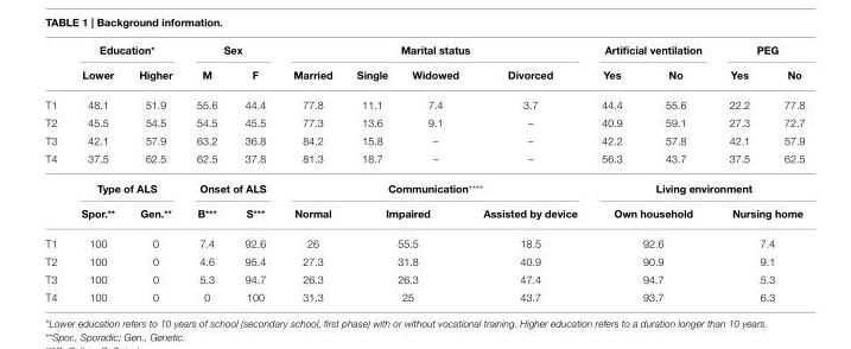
<table><thead><tr><td rowspan="2"></td><td colspan="2">Education*</td><td colspan="2">Sex</td><td colspan="4">Marital status</td><td colspan="2">Artificial ventilation</td><td colspan="2">PEG</td></tr><tr><td>Lower</td><td>Higher</td><td>M</td><td>F</td><td>Married</td><td>Single</td><td>Widowed</td><td>Divorced</td><td>Yes</td><td>No</td><td>Yes</td><td>No</td></tr></thead><tbody><tr><td>T1</td><td>48.1</td><td>51.9</td><td>55.6</td><td>44.4</td><td>77.8</td><td>11.1</td><td>7.4</td><td>3.7</td><td>44.4</td><td>55.6</td><td>22.2</td><td>77.8</td></tr><tr><td>T2</td><td>45.5</td><td>54.5</td><td>54.5</td><td>45.5</td><td>77.3</td><td>13.6</td><td>9.1</td><td>–</td><td>40.9</td><td>59.1</td><td>27.3</td><td>72.7</td></tr><tr><td>T3</td><td>42.1</td><td>57.9</td><td>63.2</td><td>36.8</td><td>84.2</td><td>15.8</td><td>–</td><td>–</td><td>42.2</td><td>57.8</td><td>42.1</td><td>57.9</td></tr><tr><td rowspan="3">T4</td><td>37.5</td><td>62.5</td><td>62.5</td><td>37.8</td><td>81.3</td><td>18.7</td><td>–</td><td>–</td><td>56.3</td><td>43.7</td><td>37.5</td><td>62.5</td></tr><tr><td colspan="2">Type of ALS</td><td colspan="2">Onset of ALS</td><td colspan="4">Communication****</td><td colspan="4">Living environment</td></tr><tr><td>Spor.**</td><td>Gen.**</td><td>B***</td><td>S***</td><td>Normal</td><td colspan="2">Impaired</td><td>Assisted by device</td><td colspan="2">Own household</td><td colspan="2">Nursing home</td></tr><tr><td>T1</td><td>100</td><td>0</td><td>7.4</td><td>92.6</td><td>26</td><td colspan="2">55.5</td><td>18.5</td><td colspan="2">92.6</td><td colspan="2">7.4</td></tr><tr><td>T2</td><td>100</td><td>0</td><td>4.6</td><td>95.4</td><td>27.3</td><td colspan="2">31.8</td><td>40.9</td><td colspan="2">90.9</td><td colspan="2">9.1</td></tr><tr><td>T3</td><td>100</td><td>0</td><td>5.3</td><td>94.7</td><td>26.3</td><td colspan="2">26.3</td><td>47.4</td><td colspan="2">94.7</td><td colspan="2">5.3</td></tr><tr><td>T4</td><td>100</td><td>0</td><td>0</td><td>100</td><td>31.3</td><td colspan="2">25</td><td>43.7</td><td colspan="2">93.7</td><td colspan="2">6.3</td></tr></tbody></table>